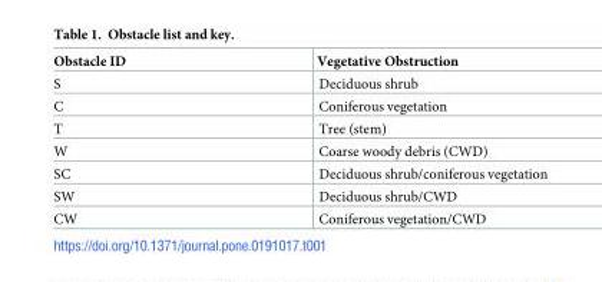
<table><thead><tr><td>Obstacle ID</td><td>Vegetative Obstruction</td></tr></thead><tbody><tr><td>S</td><td>Deciduous shrub</td></tr><tr><td>C</td><td>Coniferous vegetation</td></tr><tr><td>T</td><td>Tree (stem)</td></tr><tr><td>W</td><td>Coarse woody debris (CWD)</td></tr><tr><td>SC</td><td>Deciduous shrub/coniferous vegetation</td></tr><tr><td>SW</td><td>Deciduous shrub/CWD</td></tr><tr><td>CW</td><td>Coniferous vegetation/CWD</td></tr></tbody></table>